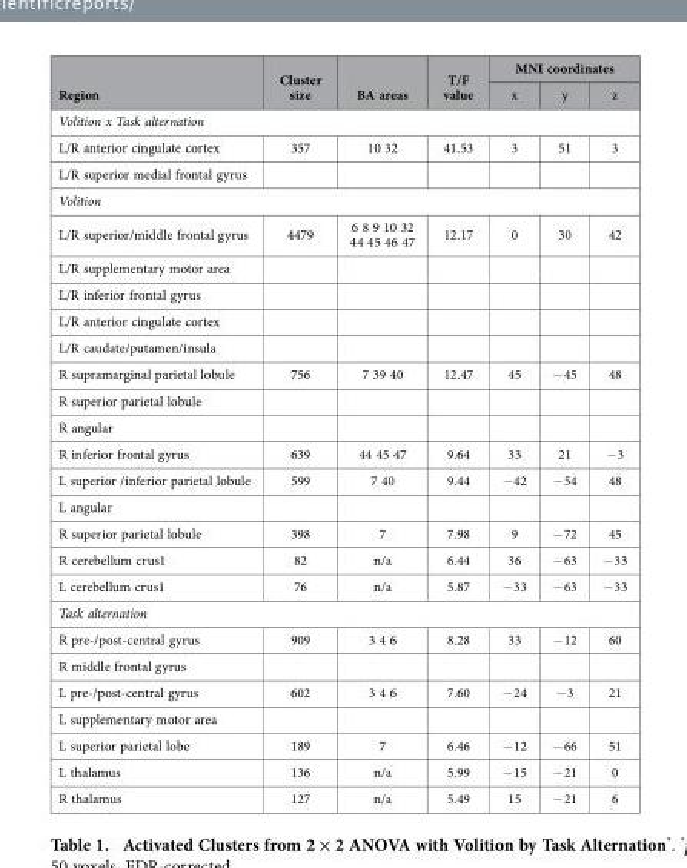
<table><thead><tr><td rowspan="2">Region</td><td rowspan="2">Cluster size</td><td rowspan="2">BA areas</td><td rowspan="2">T/F value</td><td colspan="3">MNI coordinates</td></tr><tr><td>x</td><td>y</td><td>z</td></tr></thead><tbody><tr><td colspan="7">Volition x Task alternation</td></tr><tr><td>L/R anterior cingulate cortex</td><td>357</td><td>10 32</td><td>41.53</td><td>3</td><td>51</td><td>3</td></tr><tr><td colspan="7">L/R superior medial frontal gyrus</td></tr><tr><td colspan="7">Volition</td></tr><tr><td>L/R superior/middle frontal gyrus</td><td>4479</td><td>6 8 9 10 32 44 45 46 47</td><td>12.17</td><td>0</td><td>30</td><td>42</td></tr><tr><td colspan="7">L/R supplementary motor area</td></tr><tr><td colspan="7">L/R inferior frontal gyrus</td></tr><tr><td colspan="7">L/R anterior cingulate cortex</td></tr><tr><td colspan="7">L/R caudate/putamen/insula</td></tr><tr><td>R supramarginal parietal lobule</td><td>756</td><td>7 39 40</td><td>12.47</td><td>45</td><td>− 45</td><td>48</td></tr><tr><td colspan="7">R superior parietal lobule</td></tr><tr><td colspan="7">R angular</td></tr><tr><td>R inferior frontal gyrus</td><td>639</td><td>44 45 47</td><td>9.64</td><td>33</td><td>21</td><td>− 3</td></tr><tr><td>L superior /inferior parietal lobule</td><td>599</td><td>7 40</td><td>9.44</td><td>− 42</td><td>− 54</td><td>48</td></tr><tr><td colspan="7">L angular</td></tr><tr><td>R superior parietal lobule</td><td>398</td><td>7</td><td>7.98</td><td>9</td><td>− 72</td><td>45</td></tr><tr><td>R cerebellum crus1</td><td>82</td><td>n/a</td><td>6.44</td><td>36</td><td>− 63</td><td>− 33</td></tr><tr><td>L cerebellum crus1</td><td>76</td><td>n/a</td><td>5.87</td><td>− 33</td><td>− 63</td><td>− 33</td></tr><tr><td colspan="7">Task alternation</td></tr><tr><td>R pre-/post-central gyrus</td><td>909</td><td>3 4 6</td><td>8.28</td><td>33</td><td>− 12</td><td>60</td></tr><tr><td colspan="7">R middle frontal gyrus</td></tr><tr><td>L pre-/post-central gyrus</td><td>602</td><td>3 4 6</td><td>7.60</td><td>− 24</td><td>− 3</td><td>21</td></tr><tr><td colspan="7">L supplementary motor area</td></tr><tr><td>L superior parietal lobe</td><td>189</td><td>7</td><td>6.46</td><td>− 12</td><td>− 66</td><td>51</td></tr><tr><td>L thalamus</td><td>136</td><td>n/a</td><td>5.99</td><td>− 15</td><td>− 21</td><td>0</td></tr><tr><td>R thalamus</td><td>127</td><td>n/a</td><td>5.49</td><td>15</td><td>− 21</td><td>6</td></tr></tbody></table>